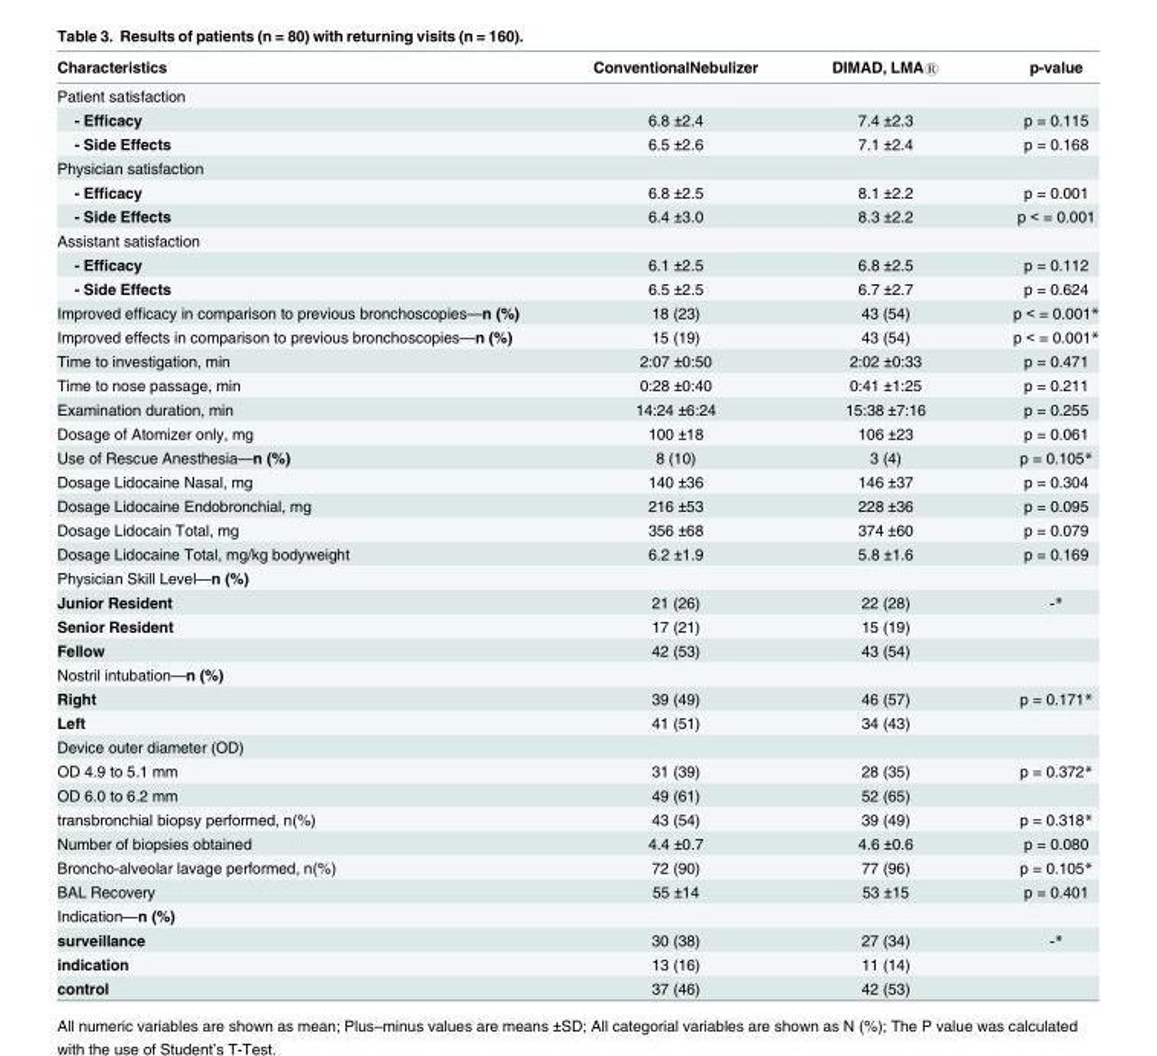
<table><thead><tr><td>Characteristics</td><td>ConventionalNebulizer</td><td>DIMAD, LMA®</td><td>p-value</td></tr></thead><tbody><tr><td colspan="4">Patient satisfaction</td></tr><tr><td>- Efficacy</td><td>6.8 ±2.4</td><td>7.4 ±2.3</td><td>p = 0.115</td></tr><tr><td>- Side Effects</td><td>6.5 ±2.6</td><td>7.1 ±2.4</td><td>p = 0.168</td></tr><tr><td colspan="4">Physician satisfaction</td></tr><tr><td>- Efficacy</td><td>6.8 ±2.5</td><td>8.1 ±2.2</td><td>p = 0.001</td></tr><tr><td>- Side Effects</td><td>6.4 ±3.0</td><td>8.3 ±2.2</td><td>p &lt; = 0.001</td></tr><tr><td colspan="4">Assistant satisfaction</td></tr><tr><td>- Efficacy</td><td>6.1 ±2.5</td><td>6.8 ±2.5</td><td>p = 0.112</td></tr><tr><td>- Side Effects</td><td>6.5 ±2.5</td><td>6.7 ±2.7</td><td>p = 0.624</td></tr><tr><td>Improved efficacy in comparison to previous bronchoscopies—n (%)</td><td>18 (23)</td><td>43 (54)</td><td>p &lt; = 0.001*</td></tr><tr><td>Improved effects in comparison to previous bronchoscopies—n (%)</td><td>15 (19)</td><td>43 (54)</td><td>p &lt; = 0.001*</td></tr><tr><td>Time to investigation, min</td><td>2:07 ±0:50</td><td>2:02 ±0:33</td><td>p = 0.471</td></tr><tr><td>Time to nose passage, min</td><td>0:28 ±0:40</td><td>0:41 ±1:25</td><td>p = 0.211</td></tr><tr><td>Examination duration, min</td><td>14:24 ±6:24</td><td>15:38 ±7:16</td><td>p = 0.255</td></tr><tr><td>Dosage of Atomizer only, mg</td><td>100 ±18</td><td>106 ±23</td><td>p = 0.061</td></tr><tr><td>Use of Rescue Anesthesia—n (%)</td><td>8 (10)</td><td>3 (4)</td><td>p = 0.105*</td></tr><tr><td>Dosage Lidocaine Nasal, mg</td><td>140 ±36</td><td>146 ±37</td><td>p = 0.304</td></tr><tr><td>Dosage Lidocaine Endobronchial, mg</td><td>216 ±53</td><td>228 ±36</td><td>p = 0.095</td></tr><tr><td>Dosage Lidocain Total, mg</td><td>356 ±68</td><td>374 ±60</td><td>p = 0.079</td></tr><tr><td>Dosage Lidocaine Total, mg/kg bodyweight</td><td>6.2 ±1.9</td><td>5.8 ±1.6</td><td>p = 0.169</td></tr><tr><td colspan="4">Physician Skill Level—n (%)</td></tr><tr><td>Junior Resident</td><td>21 (26)</td><td>22 (28)</td><td>-*</td></tr><tr><td>Senior Resident</td><td>17 (21)</td><td>15 (19)</td><td></td></tr><tr><td>Fellow</td><td>42 (53)</td><td>43 (54)</td><td></td></tr><tr><td colspan="4">Nostril intubation—n (%)</td></tr><tr><td>Right</td><td>39 (49)</td><td>46 (57)</td><td>p = 0.171*</td></tr><tr><td>Left</td><td>41 (51)</td><td>34 (43)</td><td></td></tr><tr><td colspan="4">Device outer diameter (OD)</td></tr><tr><td>OD 4.9 to 5.1 mm</td><td>31 (39)</td><td>28 (35)</td><td>p = 0.372*</td></tr><tr><td>OD 6.0 to 6.2 mm</td><td>49 (61)</td><td>52 (65)</td><td></td></tr><tr><td>transbronchial biopsy performed, n(%)</td><td>43 (54)</td><td>39 (49)</td><td>p = 0.318*</td></tr><tr><td>Number of biopsies obtained</td><td>4.4 ±0.7</td><td>4.6 ±0.6</td><td>p = 0.080</td></tr><tr><td>Broncho-alveolar lavage performed, n(%)</td><td>72 (90)</td><td>77 (96)</td><td>p = 0.105*</td></tr><tr><td>BAL Recovery</td><td>55 ±14</td><td>53 ±15</td><td>p = 0.401</td></tr><tr><td colspan="4">Indication—n (%)</td></tr><tr><td>surveillance</td><td>30 (38)</td><td>27 (34)</td><td>-*</td></tr><tr><td>indication</td><td>13 (16)</td><td>11 (14)</td><td></td></tr><tr><td>control</td><td>37 (46)</td><td>42 (53)</td><td></td></tr></tbody></table>